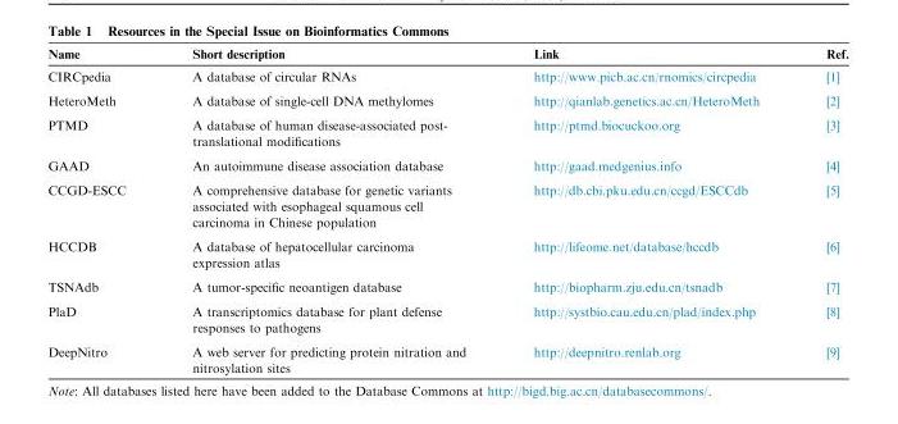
<table><thead><tr><td>Name</td><td>Short description</td><td>Link</td><td>Ref.</td></tr></thead><tbody><tr><td>CIRCpedia</td><td>A database of circular RNAs</td><td>http://www.picb.ac.cn/rnomics/circpedia</td><td>[1]</td></tr><tr><td>HeteroMeth</td><td>A database of single-cell DNA methylomes</td><td>http://qianlab.genetics.ac.cn/HeteroMeth</td><td>[2]</td></tr><tr><td>PTMD</td><td>A database of human disease-associated post- translational modifications</td><td>http://ptmd.biocuckoo.org</td><td>[3]</td></tr><tr><td>GAAD</td><td>An autoimmune disease association database</td><td>http://gaad.medgenius.info</td><td>[4]</td></tr><tr><td>CCGD-ESCC</td><td>A comprehensive database for genetic variants associated with esophageal squamous cell carcinoma in Chinese population</td><td>http://db.cbi.pku.edu.cn/ccgd/ESCCdb</td><td>[5]</td></tr><tr><td>HCCDB</td><td>A database of hepatocellular carcinoma expression atlas</td><td>http://lifeome.net/database/hccdb</td><td>[6]</td></tr><tr><td>TSNAdb</td><td>A tumor-specific neoantigen database</td><td>http://biopharm.zju.edu.cn/tsnadb</td><td>[7]</td></tr><tr><td>PlaD</td><td>A transcriptomics database for plant defense responses to pathogens</td><td>http://systbio.cau.edu.cn/plad/index.php</td><td>[8]</td></tr><tr><td>DeepNitro</td><td>A web server for predicting protein nitration and nitrosylation sites</td><td>http://deepnitro.renlab.org</td><td>[9]</td></tr></tbody></table>